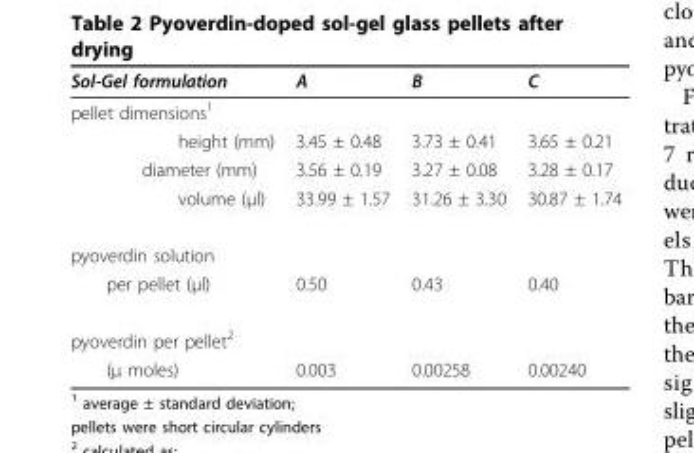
<table><thead><tr><td>Sol-Gel formulation</td><td>A</td><td>B</td><td>C</td></tr></thead><tbody><tr><td colspan="4">pellet dimensions<sup>1</sup></td></tr><tr><td>height (mm)</td><td>3.45 ± 0.48</td><td>3.73 ± 0.41</td><td>3.65 ± 0.21</td></tr><tr><td>diameter (mm)</td><td>3.56 ± 0.19</td><td>3.27 ± 0.08</td><td>3.28 ± 0.17</td></tr><tr><td>volume (μl)</td><td>33.99 ± 1.57</td><td>31.26 ± 3.30</td><td>30.87 ± 1.74</td></tr><tr><td colspan="4">pyoverdin solution</td></tr><tr><td>per pellet (μl)</td><td>0.50</td><td>0.43</td><td>0.40</td></tr><tr><td colspan="4">pyoverdin per pellet<sup>2</sup></td></tr><tr><td>(μ moles)</td><td>0.003</td><td>0.00258</td><td>0.00240</td></tr></tbody></table>